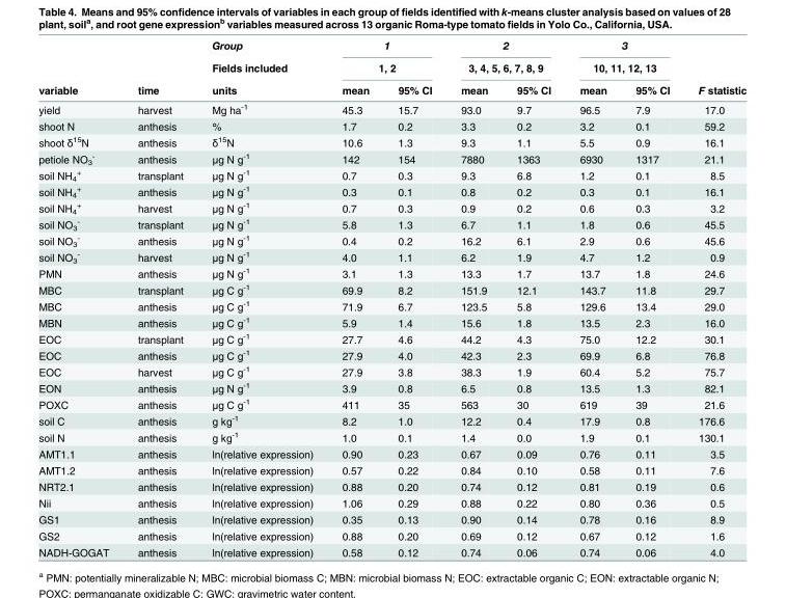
<table><thead><tr><td rowspan="3">variable</td><td rowspan="3">time</td><td rowspan="3">Group Fields included units</td><td rowspan="2" colspan="2">1 1, 2</td><td rowspan="2" colspan="2">2 3, 4, 5, 6, 7, 8, 9</td><td rowspan="2" colspan="2">3 10, 11, 12, 13</td><td rowspan="3">F statistic</td></tr><tr></tr><tr><td>mean</td><td>95% CI</td><td>mean</td><td>95% CI</td><td>mean</td><td>95% CI</td></tr></thead><tbody><tr><td>yield</td><td>harvest</td><td>Mg ha<sup>-1</sup></td><td>45.3</td><td>15.7</td><td>93.0</td><td>9.7</td><td>96.5</td><td>7.9</td><td>17.0</td></tr><tr><td>shoot N</td><td>anthesis</td><td>%</td><td>1.7</td><td>0.2</td><td>3.3</td><td>0.2</td><td>3.2</td><td>0.1</td><td>59.2</td></tr><tr><td>shoot δ<sup>15</sup>N</td><td>anthesis</td><td>δ<sup>15</sup>N</td><td>10.6</td><td>1.3</td><td>9.3</td><td>1.1</td><td>5.5</td><td>0.9</td><td>16.1</td></tr><tr><td>petiole NO<sub>3</sub> <sup>-</sup></td><td>anthesis</td><td>μg N g<sup>-1</sup></td><td>142</td><td>154</td><td>7880</td><td>1363</td><td>6930</td><td>1317</td><td>21.1</td></tr><tr><td>soil NH<sub>4</sub> <sup>+</sup></td><td>transplant</td><td>μg N g<sup>-1</sup></td><td>0.7</td><td>0.3</td><td>9.3</td><td>6.8</td><td>1.2</td><td>0.1</td><td>8.5</td></tr><tr><td>soil NH<sub>4</sub> <sup>+</sup></td><td>anthesis</td><td>μg N g<sup>-1</sup></td><td>0.3</td><td>0.1</td><td>0.8</td><td>0.2</td><td>0.3</td><td>0.1</td><td>16.1</td></tr><tr><td>soil NH<sub>4</sub> <sup>+</sup></td><td>harvest</td><td>μg N g<sup>-1</sup></td><td>0.7</td><td>0.3</td><td>0.9</td><td>0.2</td><td>0.6</td><td>0.3</td><td>3.2</td></tr><tr><td>soil NO<sub>3</sub> <sup>-</sup></td><td>transplant</td><td>μg N g<sup>-1</sup></td><td>5.8</td><td>1.3</td><td>6.7</td><td>1.1</td><td>1.8</td><td>0.6</td><td>45.5</td></tr><tr><td>soil NO<sub>3</sub> <sup>-</sup></td><td>anthesis</td><td>μg N g<sup>-1</sup></td><td>0.4</td><td>0.2</td><td>16.2</td><td>6.1</td><td>2.9</td><td>0.6</td><td>45.6</td></tr><tr><td>soil NO<sub>3</sub> <sup>-</sup></td><td>harvest</td><td>μg N g<sup>-1</sup></td><td>4.0</td><td>1.1</td><td>6.2</td><td>1.9</td><td>4.7</td><td>1.2</td><td>0.9</td></tr><tr><td>PMN</td><td>anthesis</td><td>μg N g<sup>-1</sup></td><td>3.1</td><td>1.3</td><td>13.3</td><td>1.7</td><td>13.7</td><td>1.8</td><td>24.6</td></tr><tr><td>MBC</td><td>transplant</td><td>μg C g<sup>-1</sup></td><td>69.9</td><td>8.2</td><td>151.9</td><td>12.1</td><td>143.7</td><td>11.8</td><td>29.7</td></tr><tr><td>MBC</td><td>anthesis</td><td>μg C g<sup>-1</sup></td><td>71.9</td><td>6.7</td><td>123.5</td><td>5.8</td><td>129.6</td><td>13.4</td><td>29.0</td></tr><tr><td>MBN</td><td>anthesis</td><td>μg C g<sup>-1</sup></td><td>5.9</td><td>1.4</td><td>15.6</td><td>1.8</td><td>13.5</td><td>2.3</td><td>16.0</td></tr><tr><td>EOC</td><td>transplant</td><td>μg C g<sup>-1</sup></td><td>27.7</td><td>4.6</td><td>44.2</td><td>4.3</td><td>75.0</td><td>12.2</td><td>30.1</td></tr><tr><td>EOC</td><td>anthesis</td><td>μg C g<sup>-1</sup></td><td>27.9</td><td>4.0</td><td>42.3</td><td>2.3</td><td>69.9</td><td>6.8</td><td>76.8</td></tr><tr><td>EOC</td><td>harvest</td><td>μg C g<sup>-1</sup></td><td>27.9</td><td>3.8</td><td>38.3</td><td>1.9</td><td>60.4</td><td>5.2</td><td>75.7</td></tr><tr><td>EON</td><td>anthesis</td><td>μg N g<sup>-1</sup></td><td>3.9</td><td>0.8</td><td>6.5</td><td>0.8</td><td>13.5</td><td>1.3</td><td>82.1</td></tr><tr><td>POXC</td><td>anthesis</td><td>μg C g<sup>-1</sup></td><td>411</td><td>35</td><td>563</td><td>30</td><td>619</td><td>39</td><td>21.6</td></tr><tr><td>soil C</td><td>anthesis</td><td>g kg<sup>-1</sup></td><td>8.2</td><td>1.0</td><td>12.2</td><td>0.4</td><td>17.9</td><td>0.8</td><td>176.6</td></tr><tr><td>soil N</td><td>anthesis</td><td>g kg<sup>-1</sup></td><td>1.0</td><td>0.1</td><td>1.4</td><td>0.0</td><td>1.9</td><td>0.1</td><td>130.1</td></tr><tr><td>AMT1.1</td><td>anthesis</td><td>ln(relative expression)</td><td>0.90</td><td>0.23</td><td>0.67</td><td>0.09</td><td>0.76</td><td>0.11</td><td>3.5</td></tr><tr><td>AMT1.2</td><td>anthesis</td><td>ln(relative expression)</td><td>0.57</td><td>0.22</td><td>0.84</td><td>0.10</td><td>0.58</td><td>0.11</td><td>7.6</td></tr><tr><td>NRT2.1</td><td>anthesis</td><td>ln(relative expression)</td><td>0.88</td><td>0.20</td><td>0.74</td><td>0.12</td><td>0.81</td><td>0.19</td><td>0.6</td></tr><tr><td>Nii</td><td>anthesis</td><td>ln(relative expression)</td><td>1.06</td><td>0.29</td><td>0.88</td><td>0.22</td><td>0.80</td><td>0.36</td><td>0.5</td></tr><tr><td>GS1</td><td>anthesis</td><td>ln(relative expression)</td><td>0.35</td><td>0.13</td><td>0.90</td><td>0.14</td><td>0.78</td><td>0.16</td><td>8.9</td></tr><tr><td>GS2</td><td>anthesis</td><td>ln(relative expression)</td><td>0.88</td><td>0.20</td><td>0.69</td><td>0.12</td><td>0.67</td><td>0.12</td><td>1.6</td></tr><tr><td>NADH-GOGAT</td><td>anthesis</td><td>ln(relative expression)</td><td>0.58</td><td>0.12</td><td>0.74</td><td>0.06</td><td>0.74</td><td>0.06</td><td>4.0</td></tr></tbody></table>